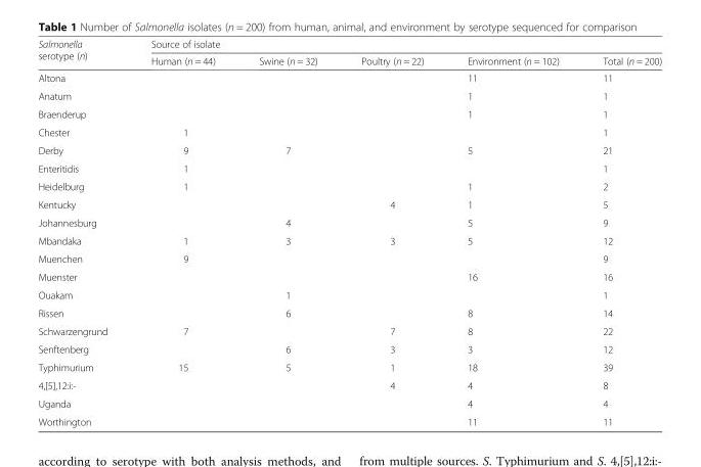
<table><thead><tr><td rowspan="2">Salmonella serotype (n)</td><td colspan="5">Source of isolate</td></tr><tr><td>Human (n = 44)</td><td>Swine (n = 32)</td><td>Poultry (n = 22)</td><td>Environment (n = 102)</td><td>Total (n = 200)</td></tr></thead><tbody><tr><td>Altona</td><td></td><td></td><td></td><td>11</td><td>11</td></tr><tr><td>Anatum</td><td></td><td></td><td></td><td>1</td><td>1</td></tr><tr><td>Braenderup</td><td></td><td></td><td></td><td>1</td><td>1</td></tr><tr><td>Chester</td><td>1</td><td></td><td></td><td></td><td>1</td></tr><tr><td>Derby</td><td>9</td><td>7</td><td></td><td>5</td><td>21</td></tr><tr><td>Enteritidis</td><td>1</td><td></td><td></td><td></td><td>1</td></tr><tr><td>Heidelburg</td><td>1</td><td></td><td></td><td>1</td><td>2</td></tr><tr><td>Kentucky</td><td></td><td></td><td>4</td><td>1</td><td>5</td></tr><tr><td>Johannesburg</td><td></td><td>4</td><td></td><td>5</td><td>9</td></tr><tr><td>Mbandaka</td><td>1</td><td>3</td><td>3</td><td>5</td><td>12</td></tr><tr><td>Muenchen</td><td>9</td><td></td><td></td><td></td><td>9</td></tr><tr><td>Muenster</td><td></td><td></td><td></td><td>16</td><td>16</td></tr><tr><td>Ouakam</td><td></td><td>1</td><td></td><td></td><td>1</td></tr><tr><td>Rissen</td><td></td><td>6</td><td></td><td>8</td><td>14</td></tr><tr><td>Schwarzengrund</td><td>7</td><td></td><td>7</td><td>8</td><td>22</td></tr><tr><td>Senftenberg</td><td></td><td>6</td><td>3</td><td>3</td><td>12</td></tr><tr><td>Typhimurium</td><td>15</td><td>5</td><td>1</td><td>18</td><td>39</td></tr><tr><td>4,[5],12:i:-</td><td></td><td></td><td>4</td><td>4</td><td>8</td></tr><tr><td>Uganda</td><td></td><td></td><td></td><td>4</td><td>4</td></tr><tr><td>Worthington</td><td></td><td></td><td></td><td>11</td><td>11</td></tr></tbody></table>